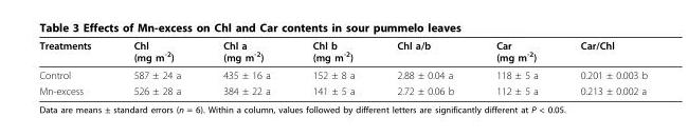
<table><thead><tr><td>Treatments</td><td>Chl (mg m<sup>-2</sup>)</td><td>Chl a (mg m<sup>-2</sup>)</td><td>Chl b (mg m<sup>-2</sup>)</td><td>Chl a/b</td><td>Car (mg m<sup>-2</sup>)</td><td>Car/Chl</td></tr></thead><tbody><tr><td>Control</td><td>587 ± 24 a</td><td>435 ± 16 a</td><td>152 ± 8 a</td><td>2.88 ± 0.04 a</td><td>118 ± 5 a</td><td>0.201 ± 0.003 b</td></tr><tr><td>Mn-excess</td><td>526 ± 28 a</td><td>384 ± 22 a</td><td>141 ± 5 a</td><td>2.72 ± 0.06 b</td><td>112 ± 5 a</td><td>0.213 ± 0.002 a</td></tr></tbody></table>